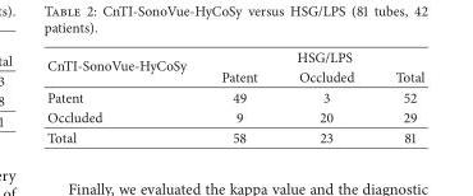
<table><thead><tr><td rowspan="2">CnTI-SonoVue-HyCoSy</td><td colspan="3">HSG/LPS</td></tr><tr><td>Patent</td><td>Occluded</td><td>Total</td></tr></thead><tbody><tr><td>Patent</td><td>49</td><td>3</td><td>52</td></tr><tr><td>Occluded</td><td>9</td><td>20</td><td>29</td></tr><tr><td>Total</td><td>58</td><td>23</td><td>81</td></tr></tbody></table>